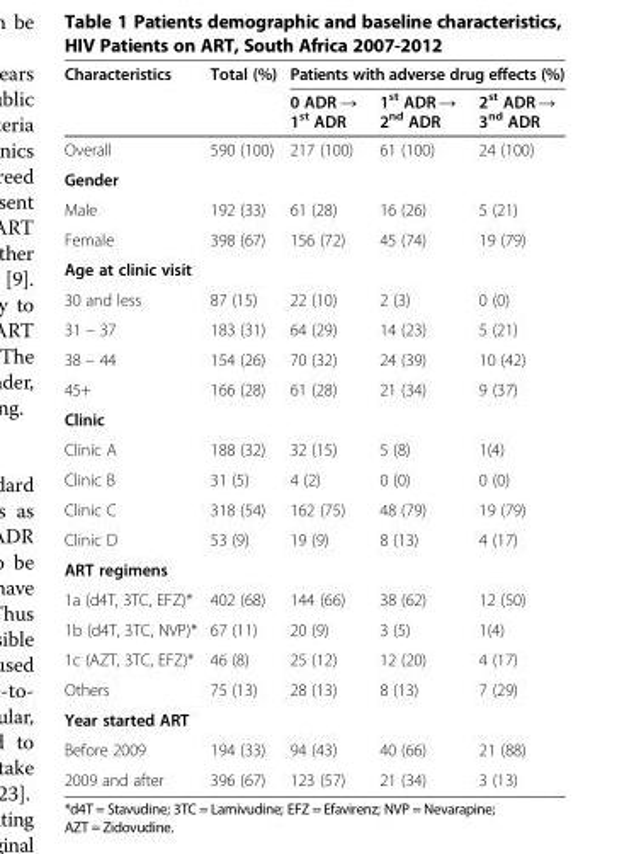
<table><thead><tr><td rowspan="2">Characteristics</td><td rowspan="2">Total (%)</td><td colspan="3">Patients with adverse drug effects (%)</td></tr><tr><td>0 ADR → 1<sup>st</sup> ADR</td><td>1<sup>st</sup> ADR → 2<sup>nd</sup> ADR</td><td>2<sup>st</sup> ADR → 3<sup>nd</sup> ADR</td></tr></thead><tbody><tr><td>Overall</td><td>590 (100)</td><td>217 (100)</td><td>61 (100)</td><td>24 (100)</td></tr><tr><td colspan="5">Gender</td></tr><tr><td>Male</td><td>192 (33)</td><td>61 (28)</td><td>16 (26)</td><td>5 (21)</td></tr><tr><td>Female</td><td>398 (67)</td><td>156 (72)</td><td>45 (74)</td><td>19 (79)</td></tr><tr><td colspan="5">Age at clinic visit</td></tr><tr><td>30 and less</td><td>87 (15)</td><td>22 (10)</td><td>2 (3)</td><td>0 (0)</td></tr><tr><td>31 – 37</td><td>183 (31)</td><td>64 (29)</td><td>14 (23)</td><td>5 (21)</td></tr><tr><td>38 – 44</td><td>154 (26)</td><td>70 (32)</td><td>24 (39)</td><td>10 (42)</td></tr><tr><td>45+</td><td>166 (28)</td><td>61 (28)</td><td>21 (34)</td><td>9 (37)</td></tr><tr><td colspan="5">Clinic</td></tr><tr><td>Clinic A</td><td>188 (32)</td><td>32 (15)</td><td>5 (8)</td><td>1(4)</td></tr><tr><td>Clinic B</td><td>31 (5)</td><td>4 (2)</td><td>0 (0)</td><td>0 (0)</td></tr><tr><td>Clinic C</td><td>318 (54)</td><td>162 (75)</td><td>48 (79)</td><td>19 (79)</td></tr><tr><td>Clinic D</td><td>53 (9)</td><td>19 (9)</td><td>8 (13)</td><td>4 (17)</td></tr><tr><td colspan="5">ART regimens</td></tr><tr><td>1a (d4T, 3TC, EFZ)*</td><td>402 (68)</td><td>144 (66)</td><td>38 (62)</td><td>12 (50)</td></tr><tr><td>1b (d4T, 3TC, NVP)*</td><td>67 (11)</td><td>20 (9)</td><td>3 (5)</td><td>1(4)</td></tr><tr><td>1c (AZT, 3TC, EFZ)*</td><td>46 (8)</td><td>25 (12)</td><td>12 (20)</td><td>4 (17)</td></tr><tr><td>Others</td><td>75 (13)</td><td>28 (13)</td><td>8 (13)</td><td>7 (29)</td></tr><tr><td colspan="5">Year started ART</td></tr><tr><td>Before 2009</td><td>194 (33)</td><td>94 (43)</td><td>40 (66)</td><td>21 (88)</td></tr><tr><td>2009 and after</td><td>396 (67)</td><td>123 (57)</td><td>21 (34)</td><td>3 (13)</td></tr></tbody></table>